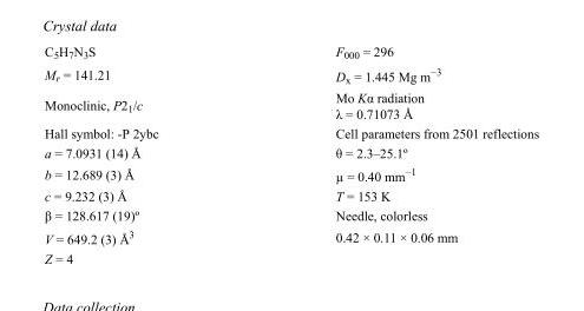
<table><tbody><tr><td>C<sub>5</sub>H<sub>7</sub>N<sub>3</sub>S</td><td>F000 = 296</td></tr><tr><td>M<sub>r</sub> = 141.21</td><td>D<sub>x</sub> = 1.445 Mg m<sup>−3</sup></td></tr><tr><td>Monoclinic, P2<sub>1</sub>/c</td><td>Mo Kα radiation λ = 0.71073 Å</td></tr><tr><td>Hall symbol: -P 2ybc</td><td>Cell parameters from 2501 reflections</td></tr><tr><td>a = 7.0931 (14) Å</td><td>θ = 2.3–25.1º</td></tr><tr><td>b = 12.689 (3) Å</td><td>µ = 0.40 mm<sup>−1</sup></td></tr><tr><td>c = 9.232 (3) Å</td><td>T = 153 K</td></tr><tr><td>β = 128.617 (19)º</td><td>Needle, colorless</td></tr><tr><td>V = 649.2 (3) Å<sup>3</sup></td><td>0.42 × 0.11 × 0.06 mm</td></tr><tr><td>Z = 4</td><td></td></tr></tbody></table>